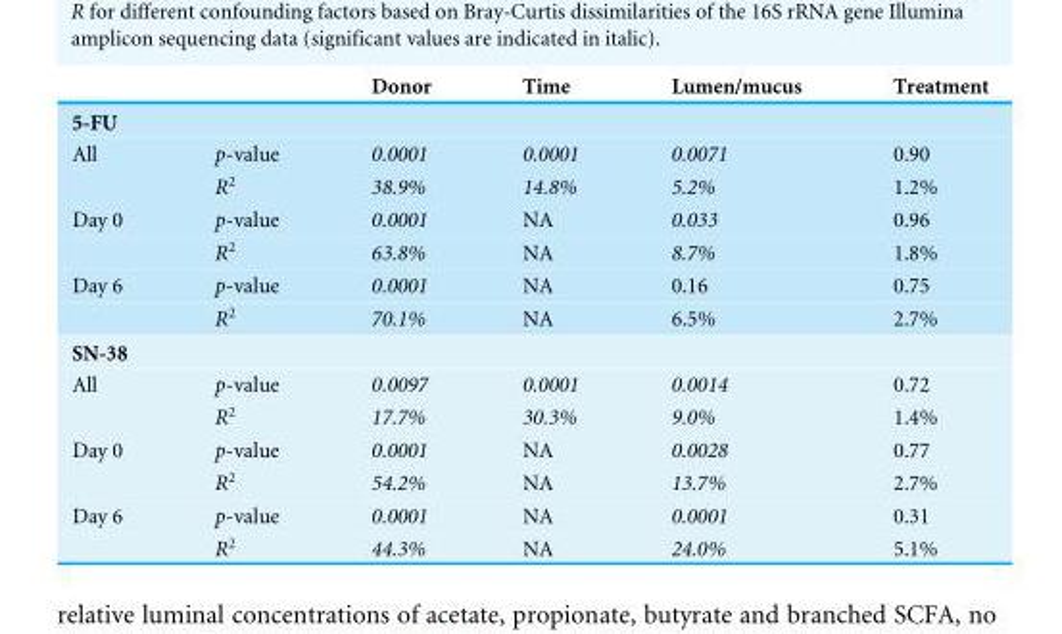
<table><thead><tr><td></td><td></td><td>Donor</td><td>Time</td><td>Lumen/mucus</td><td>Treatment</td></tr></thead><tbody><tr><td colspan="6">5-FU</td></tr><tr><td rowspan="2">All</td><td>p-value</td><td>0.0001</td><td>0.0001</td><td>0.0071</td><td>0.90</td></tr><tr><td>R<sup>2</sup></td><td>38.9%</td><td>14.8%</td><td>5.2%</td><td>1.2%</td></tr><tr><td rowspan="2">Day 0</td><td>p-value</td><td>0.0001</td><td>NA</td><td>0.033</td><td>0.96</td></tr><tr><td>R<sup>2</sup></td><td>63.8%</td><td>NA</td><td>8.7%</td><td>1.8%</td></tr><tr><td rowspan="2">Day 6</td><td>p-value</td><td>0.0001</td><td>NA</td><td>0.16</td><td>0.75</td></tr><tr><td>R<sup>2</sup></td><td>70.1%</td><td>NA</td><td>6.5%</td><td>2.7%</td></tr><tr><td colspan="6">SN-38</td></tr><tr><td rowspan="2">All</td><td>p-value</td><td>0.0097</td><td>0.0001</td><td>0.0014</td><td>0.72</td></tr><tr><td>R<sup>2</sup></td><td>17.7%</td><td>30.3%</td><td>9.0%</td><td>1.4%</td></tr><tr><td rowspan="2">Day 0</td><td>p-value</td><td>0.0001</td><td>NA</td><td>0.0028</td><td>0.77</td></tr><tr><td>R<sup>2</sup></td><td>54.2%</td><td>NA</td><td>13.7%</td><td>2.7%</td></tr><tr><td rowspan="2">Day 6</td><td>p-value</td><td>0.0001</td><td>NA</td><td>0.0001</td><td>0.31</td></tr><tr><td>R<sup>2</sup></td><td>44.3%</td><td>NA</td><td>24.0%</td><td>5.1%</td></tr></tbody></table>